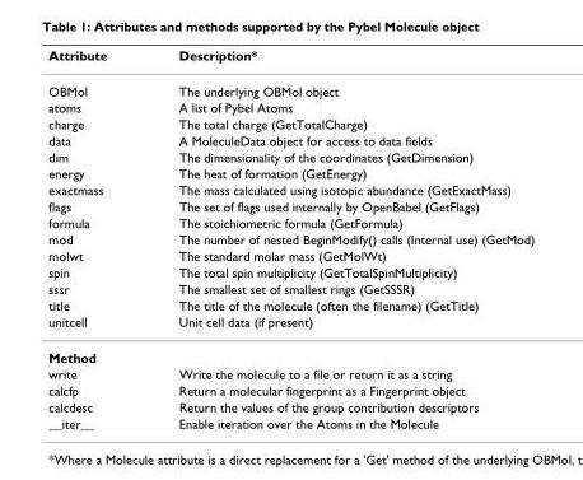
<table><thead><tr><td>Attribute</td><td>Description*</td></tr></thead><tbody><tr><td>OBMol</td><td>The underlying OBMol object</td></tr><tr><td>atoms</td><td>A list of Pybel Atoms</td></tr><tr><td>charge</td><td>The total charge (GetTotalCharge)</td></tr><tr><td>data</td><td>A MoleculeData object for access to data fields</td></tr><tr><td>dim</td><td>The dimensionality of the coordinates (GetDimension)</td></tr><tr><td>energy</td><td>The heat of formation (GetEnergy)</td></tr><tr><td>exactmass</td><td>The mass calculated using isotopic abundance (GetExactMass)</td></tr><tr><td>flags</td><td>The set of flags used internally by OpenBabel (GetFlags)</td></tr><tr><td>formula</td><td>The stoichiometric formula (GetFormula)</td></tr><tr><td>mod</td><td>The number of nested BeginModify() calls (Internal use) (GetMod)</td></tr><tr><td>molwt</td><td>The standard molar mass (GetMolWt)</td></tr><tr><td>spin</td><td>The total spin multiplicity (GetTotalSpinMultiplicity)</td></tr><tr><td>sssr</td><td>The smallest set of smallest rings (GetSSSR)</td></tr><tr><td>title</td><td>The title of the molecule (often the filename) (GetTitle)</td></tr><tr><td>unitcell</td><td>Unit cell data (if present)</td></tr><tr><td colspan="2">Method</td></tr><tr><td>write</td><td>Write the molecule to a file or return it as a string</td></tr><tr><td>calcfp</td><td>Return a molecular fingerprint as a Fingerprint object</td></tr><tr><td>calcdesc</td><td>Return the values of the group contribution descriptors</td></tr><tr><td>__iter__</td><td>Enable iteration over the Atoms in the Molecule</td></tr></tbody></table>